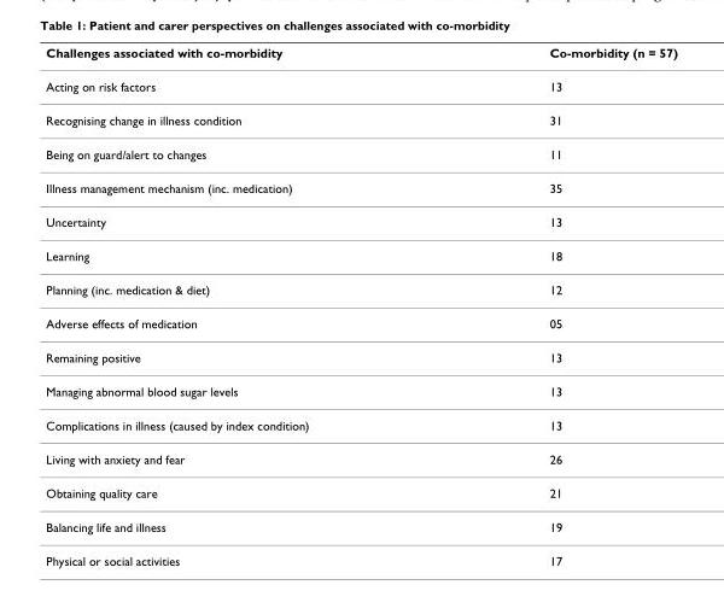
<table><thead><tr><td>Challenges associated with co-morbidity</td><td>Co-morbidity (n = 57)</td></tr></thead><tbody><tr><td>Acting on risk factors</td><td>13</td></tr><tr><td>Recognising change in illness condition</td><td>31</td></tr><tr><td>Being on guard/alert to changes</td><td>11</td></tr><tr><td>Illness management mechanism (inc. medication)</td><td>35</td></tr><tr><td>Uncertainty</td><td>13</td></tr><tr><td>Learning</td><td>18</td></tr><tr><td>Planning (inc. medication &amp; diet)</td><td>12</td></tr><tr><td>Adverse effects of medication</td><td>05</td></tr><tr><td>Remaining positive</td><td>13</td></tr><tr><td>Managing abnormal blood sugar levels</td><td>13</td></tr><tr><td>Complications in illness (caused by index condition)</td><td>13</td></tr><tr><td>Living with anxiety and fear</td><td>26</td></tr><tr><td>Obtaining quality care</td><td>21</td></tr><tr><td>Balancing life and illness</td><td>19</td></tr><tr><td>Physical or social activities</td><td>17</td></tr></tbody></table>